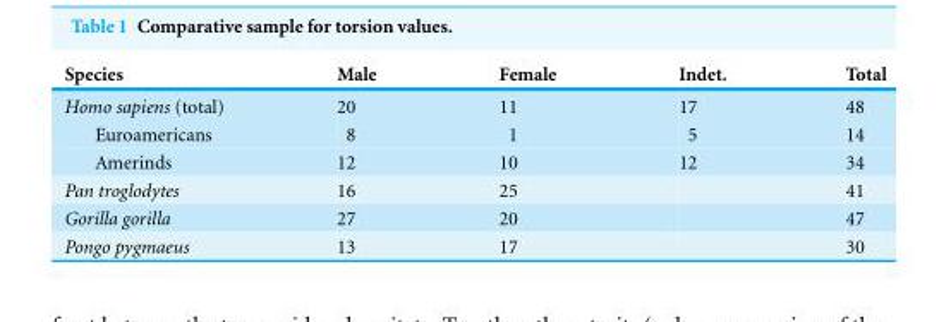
<table><thead><tr><td>Species</td><td>Male</td><td>Female</td><td>Indet.</td><td>Total</td></tr></thead><tbody><tr><td>Homo sapiens (total)</td><td>20</td><td>11</td><td>17</td><td>48</td></tr><tr><td>Euroamericans</td><td>8</td><td>1</td><td>5</td><td>14</td></tr><tr><td>Amerinds</td><td>12</td><td>10</td><td>12</td><td>34</td></tr><tr><td>Pan troglodytes</td><td>16</td><td>25</td><td></td><td>41</td></tr><tr><td>Gorilla gorilla</td><td>27</td><td>20</td><td></td><td>47</td></tr><tr><td>Pongo pygmaeus</td><td>13</td><td>17</td><td></td><td>30</td></tr></tbody></table>